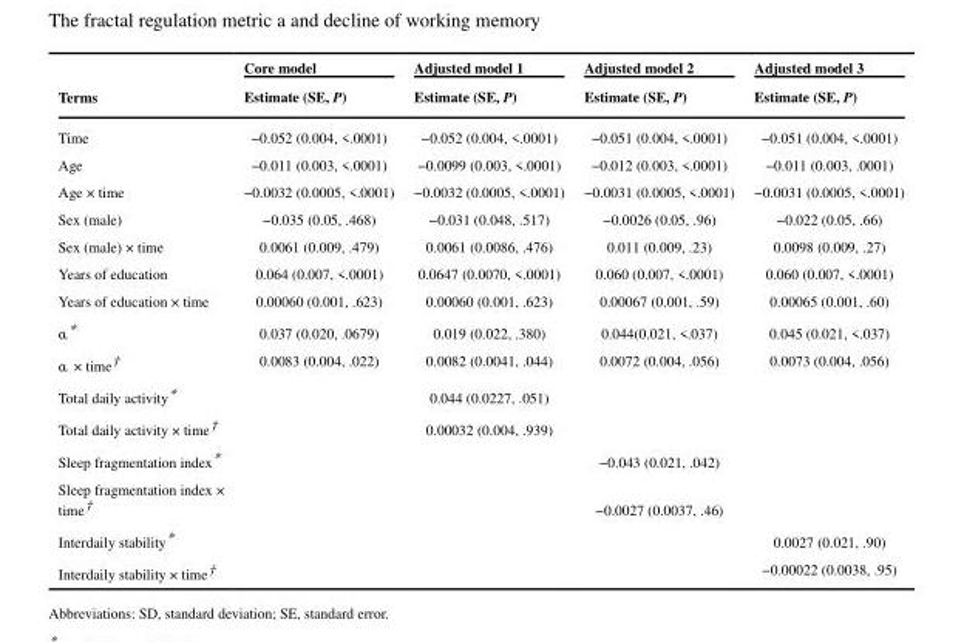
<table><thead><tr><td rowspan="2">Terms</td><td rowspan="2">Core model Estimate (SE, P)</td><td rowspan="2">Adjusted model 1 Estimate (SE, P)</td><td rowspan="2">Adjusted model 2 Estimate (SE, P)</td><td rowspan="2">Adjusted model 3 Estimate (SE, P)</td></tr><tr></tr></thead><tbody><tr><td>Time</td><td>−0.052 (0.004, &lt;.0001)</td><td>−0.052 (0.004, &lt;.0001)</td><td>−0.051 (0.004, &lt;.0001)</td><td>−0.051 (0.004, &lt;.0001)</td></tr><tr><td>Age</td><td>−0.011 (0.003, &lt;.0001)</td><td>−0.0099 (0.003, &lt;.0001)</td><td>−0.012 (0.003, &lt;.0001)</td><td>−0.011 (0.003, .0001)</td></tr><tr><td>Age × time</td><td>−0.0032 (0.0005, &lt;.0001)</td><td>−0.0032 (0.0005, &lt;.0001)</td><td>−0.0031 (0.0005, &lt;.0001)</td><td>−0.0031 (0.0005, &lt;.0001)</td></tr><tr><td>Sex (male)</td><td>−0.035 (0.05, .468)</td><td>−0.031 (0.048, .517)</td><td>−0.0026 (0.05, .96)</td><td>−0.022 (0.05, .66)</td></tr><tr><td>Sex (male) × time</td><td>0.0061 (0.009, .479)</td><td>0.0061 (0.0086, .476)</td><td>0.011 (0.009, .23)</td><td>0.0098 (0.009, .27)</td></tr><tr><td>Years of education</td><td>0.064 (0.007, &lt;.0001)</td><td>0.0647 (0.0070, &lt;.0001)</td><td>0.060 (0.007, &lt;.0001)</td><td>0.060 (0.007, &lt;.0001)</td></tr><tr><td>Years of education × time</td><td>0.00060 (0.001, .623)</td><td>0.00060 (0.001, .623)</td><td>0.00067 (0.001, .59)</td><td>0.00065 (0.001, .60)</td></tr><tr><td>α*</td><td>0.037 (0.020, .0679)</td><td>0.019 (0.022, .380)</td><td>0.044(0.021, &lt;.037)</td><td>0.045 (0.021, &lt;.037)</td></tr><tr><td>α × time†</td><td>0.0083 (0.004, .022)</td><td>0.0082 (0.0041, .044)</td><td>0.0072 (0.004, .056)</td><td>0.0073 (0.004, .056)</td></tr><tr><td>Total daily activity*</td><td></td><td>0.044 (0.0227, .051)</td><td></td><td></td></tr><tr><td>Total daily activity × time†</td><td></td><td>0.00032 (0.004, .939)</td><td></td><td></td></tr><tr><td>Sleep fragmentation index*</td><td></td><td></td><td>−0.043 (0.021, .042)</td><td></td></tr><tr><td>Sleep fragmentation index × time†</td><td></td><td></td><td>−0.0027 (0.0037, .46)</td><td></td></tr><tr><td>Interdaily stability*</td><td></td><td></td><td></td><td>0.0027 (0.021, .90)</td></tr><tr><td>Interdaily stability × time†</td><td></td><td></td><td></td><td>−0.00022 (0.0038, .95)</td></tr></tbody></table>